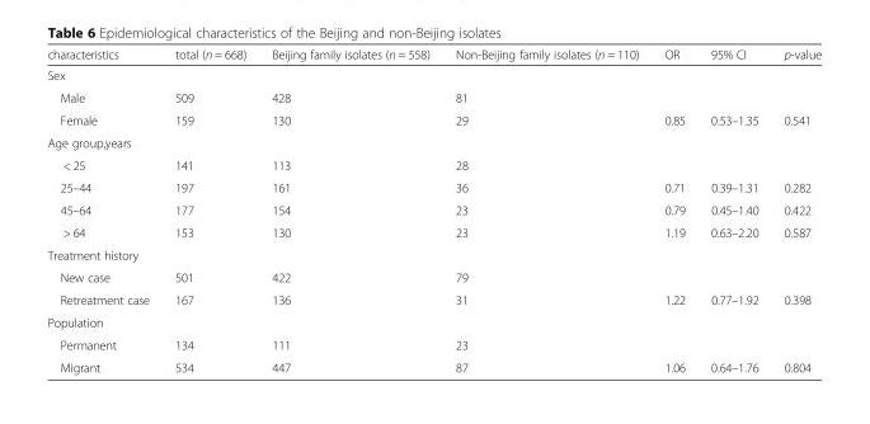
<table><thead><tr><td>characteristics</td><td>total (n = 668)</td><td>Beijing family isolates (n = 558)</td><td>Non-Beijing family isolates (n = 110)</td><td>OR</td><td>95% CI</td><td>p-value</td></tr></thead><tbody><tr><td colspan="7">Sex</td></tr><tr><td>Male</td><td>509</td><td>428</td><td>81</td><td></td><td></td><td></td></tr><tr><td>Female</td><td>159</td><td>130</td><td>29</td><td>0.85</td><td>0.53–1.35</td><td>0.541</td></tr><tr><td colspan="7">Age group,years</td></tr><tr><td>&lt; 25</td><td>141</td><td>113</td><td>28</td><td></td><td></td><td></td></tr><tr><td>25–44</td><td>197</td><td>161</td><td>36</td><td>0.71</td><td>0.39–1.31</td><td>0.282</td></tr><tr><td>45–64</td><td>177</td><td>154</td><td>23</td><td>0.79</td><td>0.45–1.40</td><td>0.422</td></tr><tr><td>&gt; 64</td><td>153</td><td>130</td><td>23</td><td>1.19</td><td>0.63–2.20</td><td>0.587</td></tr><tr><td colspan="7">Treatment history</td></tr><tr><td>New case</td><td>501</td><td>422</td><td>79</td><td></td><td></td><td></td></tr><tr><td>Retreatment case</td><td>167</td><td>136</td><td>31</td><td>1.22</td><td>0.77–1.92</td><td>0.398</td></tr><tr><td colspan="7">Population</td></tr><tr><td>Permanent</td><td>134</td><td>111</td><td>23</td><td></td><td></td><td></td></tr><tr><td>Migrant</td><td>534</td><td>447</td><td>87</td><td>1.06</td><td>0.64–1.76</td><td>0.804</td></tr></tbody></table>